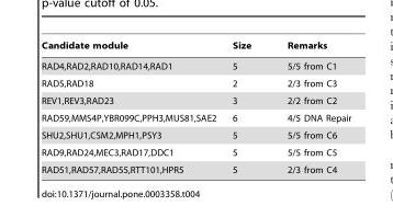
<table><thead><tr><td>Candidate module</td><td>Size</td><td>Remarks</td></tr></thead><tbody><tr><td>RAD4,RAD2,RAD10,RAD14,RAD1</td><td>5</td><td>5/5 from C1</td></tr><tr><td>RAD5,RAD18</td><td>2</td><td>2/3 from C3</td></tr><tr><td>REV1,REV3,RAD23</td><td>3</td><td>2/2 from C2</td></tr><tr><td>RAD59,MMS4P,YBR099C,PPH3,MUS81,SAE2</td><td>6</td><td>4/5 DNA Repair</td></tr><tr><td>SHU2,SHU1,CSM2,MPH1,PSY3</td><td>5</td><td>5/5 from C6</td></tr><tr><td>RAD9,RAD24,MEC3,RAD17,DDC1</td><td>5</td><td>5/5 from C5</td></tr><tr><td>RAD51,RAD57,RAD55,RTT101,HPR5</td><td>5</td><td>2/3 from C4</td></tr></tbody></table>